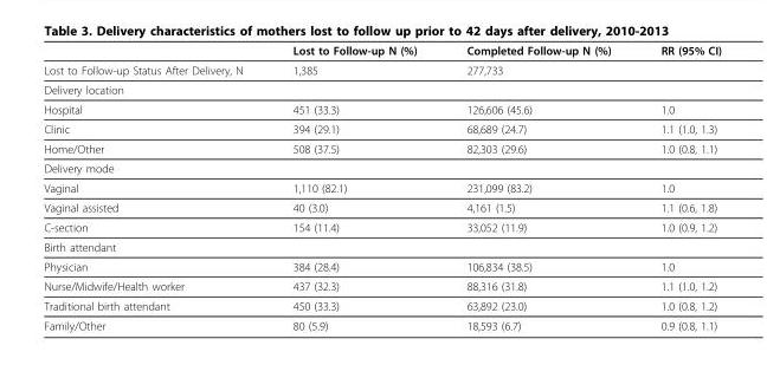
<table><thead><tr><td></td><td>Lost to Follow-up N (%)</td><td>Completed Follow-up N (%)</td><td>RR (95% CI)</td></tr></thead><tbody><tr><td>Lost to Follow-up Status After Delivery, N</td><td>1,385</td><td>277,733</td><td></td></tr><tr><td colspan="4">Delivery location</td></tr><tr><td>Hospital</td><td>451 (33.3)</td><td>126,606 (45.6)</td><td>1.0</td></tr><tr><td>Clinic</td><td>394 (29.1)</td><td>68,689 (24.7)</td><td>1.1 (1.0, 1.3)</td></tr><tr><td>Home/Other</td><td>508 (37.5)</td><td>82,303 (29.6)</td><td>1.0 (0.8, 1.1)</td></tr><tr><td colspan="4">Delivery mode</td></tr><tr><td>Vaginal</td><td>1,110 (82.1)</td><td>231,099 (83.2)</td><td>1.0</td></tr><tr><td>Vaginal assisted</td><td>40 (3.0)</td><td>4,161 (1.5)</td><td>1.1 (0.6, 1.8)</td></tr><tr><td>C-section</td><td>154 (11.4)</td><td>33,052 (11.9)</td><td>1.0 (0.9, 1.2)</td></tr><tr><td colspan="4">Birth attendant</td></tr><tr><td>Physician</td><td>384 (28.4)</td><td>106,834 (38.5)</td><td>1.0</td></tr><tr><td>Nurse/Midwife/Health worker</td><td>437 (32.3)</td><td>88,316 (31.8)</td><td>1.1 (1.0, 1.2)</td></tr><tr><td>Traditional birth attendant</td><td>450 (33.3)</td><td>63,892 (23.0)</td><td>1.0 (0.8, 1.2)</td></tr><tr><td>Family/Other</td><td>80 (5.9)</td><td>18,593 (6.7)</td><td>0.9 (0.8, 1.1)</td></tr></tbody></table>